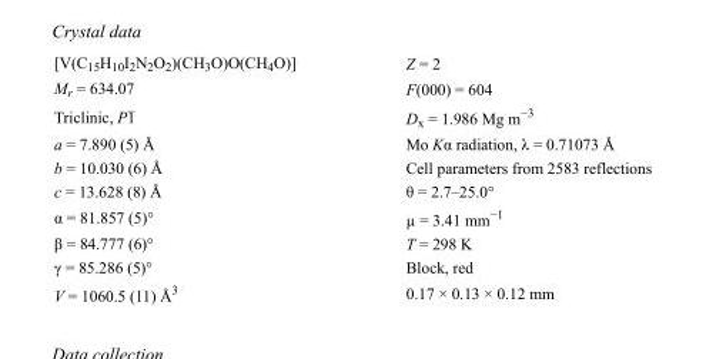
<table><tbody><tr><td>[V(C<sub>15</sub>H<sub>10</sub>I<sub>2</sub>N<sub>2</sub>O<sub>2</sub>)(CH<sub>3</sub>O)O(CH<sub>4</sub>O)]</td><td>Z = 2</td></tr><tr><td>M<sub>r</sub> = 634.07</td><td>F(000) = 604</td></tr><tr><td>Triclinic, P1</td><td>D<sub>x</sub> = 1.986 Mg m<sup>−3</sup></td></tr><tr><td>a = 7.890 (5) Å</td><td>Mo Kα radiation, λ = 0.71073 Å</td></tr><tr><td>b = 10.030 (6) Å</td><td>Cell parameters from 2583 reflections</td></tr><tr><td>c = 13.628 (8) Å</td><td>θ = 2.7–25.0°</td></tr><tr><td>α = 81.857 (5)°</td><td>µ = 3.41 mm<sup>−1</sup></td></tr><tr><td>β = 84.777 (6)°</td><td>T = 298 K</td></tr><tr><td>γ = 85.286 (5)°</td><td>Block, red</td></tr><tr><td>V = 1060.5 (11) Å<sup>3</sup></td><td>0.17 × 0.13 × 0.12 mm</td></tr></tbody></table>